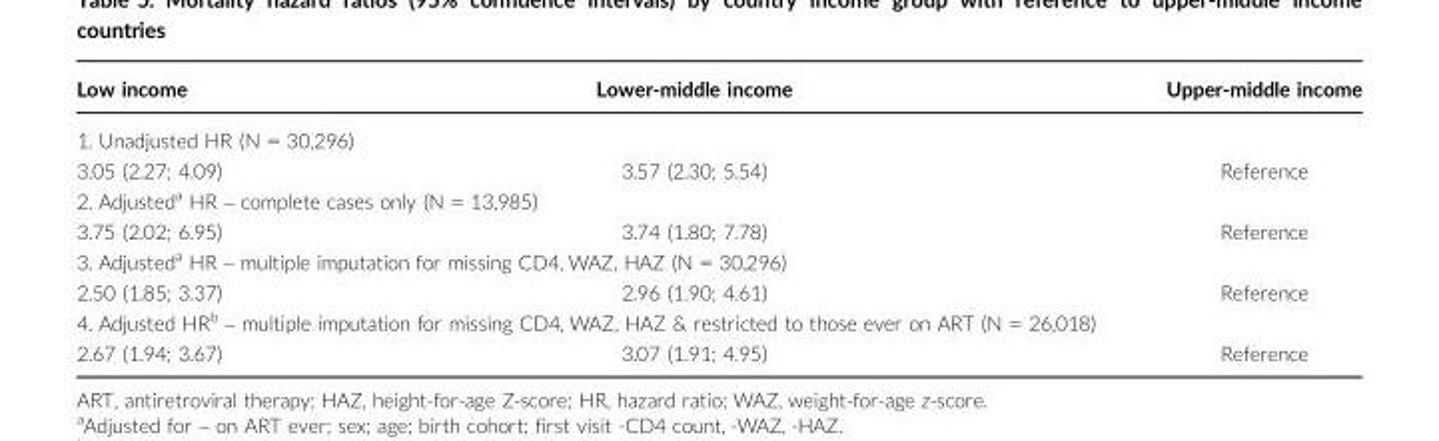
<table><thead><tr><td>Low income</td><td>Lower-middle income</td><td>Upper-middle income</td></tr></thead><tbody><tr><td colspan="3">1. Unadjusted HR (N = 30,296)</td></tr><tr><td>3.05 (2.27; 4.09)</td><td>3.57 (2.30; 5.54)</td><td>Reference</td></tr><tr><td colspan="3">2. Adjusted<sup>a</sup> HR – complete cases only (N = 13,985)</td></tr><tr><td>3.75 (2.02; 6.95)</td><td>3.74 (1.80; 7.78)</td><td>Reference</td></tr><tr><td colspan="3">3. Adjusted<sup>a</sup> HR – multiple imputation for missing CD4, WAZ, HAZ (N = 30,296)</td></tr><tr><td>2.50 (1.85; 3.37)</td><td>2.96 (1.90; 4.61)</td><td>Reference</td></tr><tr><td colspan="3">4. Adjusted HR<sup>b</sup> – multiple imputation for missing CD4, WAZ, HAZ &amp; restricted to those ever on ART (N = 26,018)</td></tr><tr><td>2.67 (1.94; 3.67)</td><td>3.07 (1.91; 4.95)</td><td>Reference</td></tr></tbody></table>